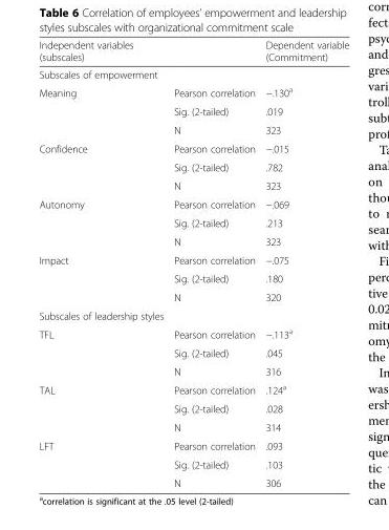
<table><thead><tr><td>Independent variables (subscales)</td><td></td><td>Dependent variable (Commitment)</td></tr></thead><tbody><tr><td colspan="3">Subscales of empowerment</td></tr><tr><td rowspan="3">Meaning</td><td>Pearson correlation</td><td>−.130<sup>a</sup></td></tr><tr><td>Sig. (2-tailed)</td><td>.019</td></tr><tr><td>N</td><td>323</td></tr><tr><td rowspan="3">Confidence</td><td>Pearson correlation</td><td>−.015</td></tr><tr><td>Sig. (2-tailed)</td><td>.782</td></tr><tr><td>N</td><td>323</td></tr><tr><td rowspan="3">Autonomy</td><td>Pearson correlation</td><td>−.069</td></tr><tr><td>Sig. (2-tailed)</td><td>.213</td></tr><tr><td>N</td><td>323</td></tr><tr><td rowspan="3">Impact</td><td>Pearson correlation</td><td>−.075</td></tr><tr><td>Sig. (2-tailed)</td><td>.180</td></tr><tr><td>N</td><td>320</td></tr><tr><td colspan="3">Subscales of leadership styles</td></tr><tr><td rowspan="3">TFL</td><td>Pearson correlation</td><td>−.113<sup>a</sup></td></tr><tr><td>Sig. (2-tailed)</td><td>.045</td></tr><tr><td>N</td><td>316</td></tr><tr><td rowspan="3">TAL</td><td>Pearson correlation</td><td>.124<sup>a</sup></td></tr><tr><td>Sig. (2-tailed)</td><td>.028</td></tr><tr><td>N</td><td>314</td></tr><tr><td rowspan="3">LFT</td><td>Pearson correlation</td><td>.093</td></tr><tr><td>Sig. (2-tailed)</td><td>.103</td></tr><tr><td>N</td><td>306</td></tr></tbody></table>